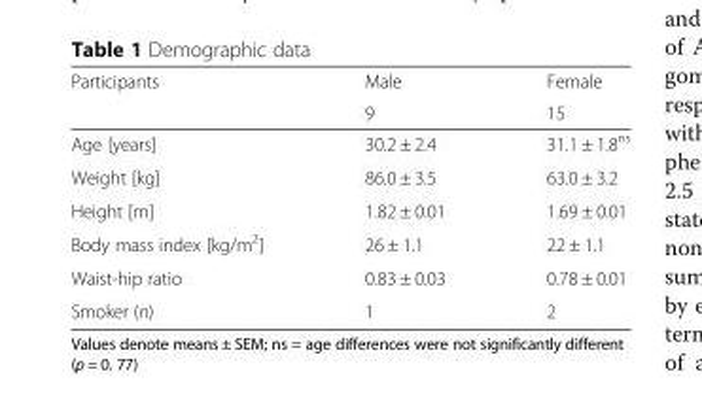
<table><thead><tr><td rowspan="2">Participants</td><td rowspan="2">Male 9</td><td rowspan="2">Female 15</td></tr><tr></tr></thead><tbody><tr><td>Age [years]</td><td>30.2 ± 2.4</td><td>31.1 ± 1.8<sup>ns</sup></td></tr><tr><td>Weight [kg]</td><td>86.0 ± 3.5</td><td>63.0 ± 3.2</td></tr><tr><td>Height [m]</td><td>1.82 ± 0.01</td><td>1.69 ± 0.01</td></tr><tr><td>Body mass index [kg/m<sup>2</sup>]</td><td>26 ± 1.1</td><td>22 ± 1.1</td></tr><tr><td>Waist-hip ratio</td><td>0.83 ± 0.03</td><td>0.78 ± 0.01</td></tr><tr><td>Smoker (n)</td><td>1</td><td>2</td></tr></tbody></table>